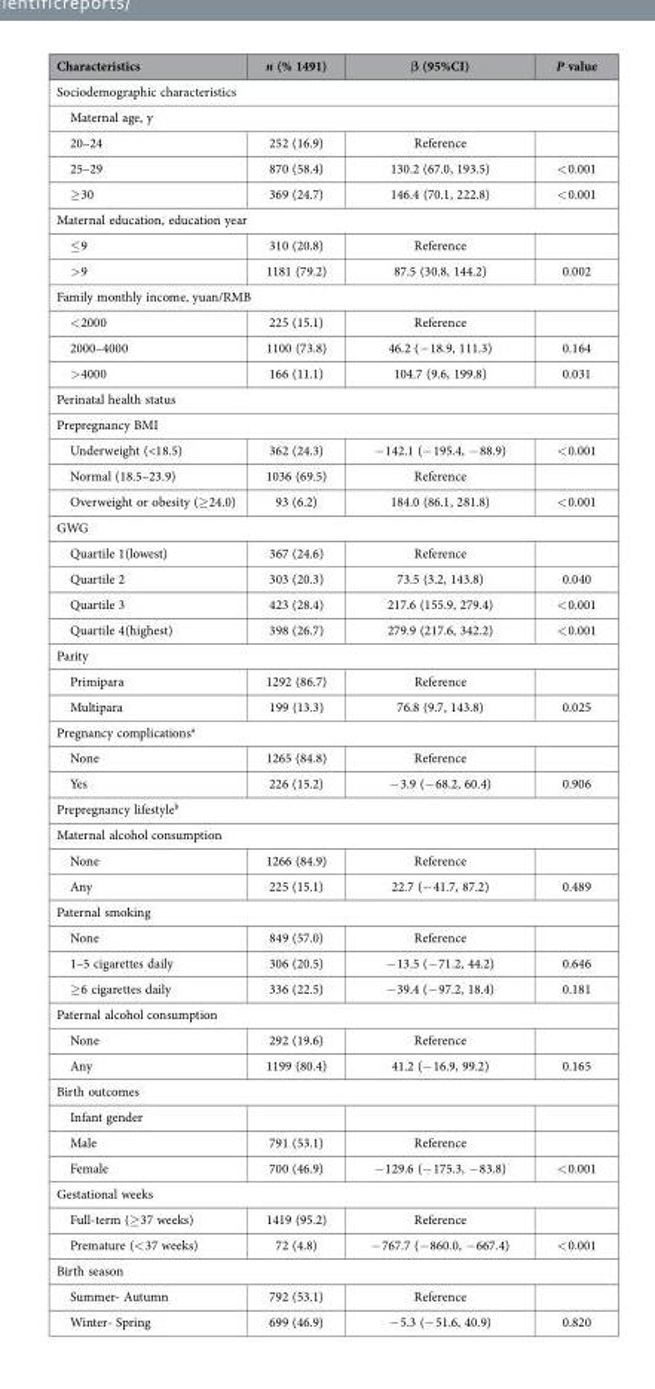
<table><thead><tr><td>Characteristics</td><td>n (% 1491)</td><td>β (95%CI)</td><td>P value</td></tr></thead><tbody><tr><td colspan="4">Sociodemographic characteristics</td></tr><tr><td colspan="4">Maternal age, y</td></tr><tr><td>20–24</td><td>252 (16.9)</td><td>Reference</td><td></td></tr><tr><td>25–29</td><td>870 (58.4)</td><td>130.2 (67.0, 193.5)</td><td>&lt; 0.001</td></tr><tr><td>≥ 30</td><td>369 (24.7)</td><td>146.4 (70.1, 222.8)</td><td>&lt; 0.001</td></tr><tr><td colspan="4">Maternal education, education year</td></tr><tr><td>≤ 9</td><td>310 (20.8)</td><td>Reference</td><td></td></tr><tr><td>&gt; 9</td><td>1181 (79.2)</td><td>87.5 (30.8, 144.2)</td><td>0.002</td></tr><tr><td colspan="4">Family monthly income, yuan/RMB</td></tr><tr><td>&lt; 2000</td><td>225 (15.1)</td><td>Reference</td><td></td></tr><tr><td>2000–4000</td><td>1100 (73.8)</td><td>46.2 (− 18.9, 111.3)</td><td>0.164</td></tr><tr><td>&gt; 4000</td><td>166 (11.1)</td><td>104.7 (9.6, 199.8)</td><td>0.031</td></tr><tr><td colspan="4">Perinatal health status</td></tr><tr><td colspan="4">Prepregnancy BMI</td></tr><tr><td>Underweight (&lt;18.5)</td><td>362 (24.3)</td><td>− 142.1 (− 195.4, − 88.9)</td><td>&lt; 0.001</td></tr><tr><td>Normal (18.5–23.9)</td><td>1036 (69.5)</td><td>Reference</td><td></td></tr><tr><td>Overweight or obesity (≥ 24.0)</td><td>93 (6.2)</td><td>184.0 (86.1, 281.8)</td><td>&lt; 0.001</td></tr><tr><td colspan="4">GWG</td></tr><tr><td>Quartile 1(lowest)</td><td>367 (24.6)</td><td>Reference</td><td></td></tr><tr><td>Quartile 2</td><td>303 (20.3)</td><td>73.5 (3.2, 143.8)</td><td>0.040</td></tr><tr><td>Quartile 3</td><td>423 (28.4)</td><td>217.6 (155.9, 279.4)</td><td>&lt; 0.001</td></tr><tr><td>Quartile 4(highest)</td><td>398 (26.7)</td><td>279.9 (217.6, 342.2)</td><td>&lt; 0.001</td></tr><tr><td colspan="4">Parity</td></tr><tr><td>Primipara</td><td>1292 (86.7)</td><td>Reference</td><td></td></tr><tr><td>Multipara</td><td>199 (13.3)</td><td>76.8 (9.7, 143.8)</td><td>0.025</td></tr><tr><td colspan="4">Pregnancy complications<sup>a</sup></td></tr><tr><td>None</td><td>1265 (84.8)</td><td>Reference</td><td></td></tr><tr><td>Yes</td><td>226 (15.2)</td><td>− 3.9 (− 68.2, 60.4)</td><td>0.906</td></tr><tr><td colspan="4">Prepregnancy lifestyle<sup>b</sup></td></tr><tr><td colspan="4">Maternal alcohol consumption</td></tr><tr><td>None</td><td>1266 (84.9)</td><td>Reference</td><td></td></tr><tr><td>Any</td><td>225 (15.1)</td><td>22.7 (− 41.7, 87.2)</td><td>0.489</td></tr><tr><td colspan="4">Paternal smoking</td></tr><tr><td>None</td><td>849 (57.0)</td><td>Reference</td><td></td></tr><tr><td>1–5 cigarettes daily</td><td>306 (20.5)</td><td>− 13.5 (− 71.2, 44.2)</td><td>0.646</td></tr><tr><td>≥ 6 cigarettes daily</td><td>336 (22.5)</td><td>− 39.4 (− 97.2, 18.4)</td><td>0.181</td></tr><tr><td colspan="4">Paternal alcohol consumption</td></tr><tr><td>None</td><td>292 (19.6)</td><td>Reference</td><td></td></tr><tr><td>Any</td><td>1199 (80.4)</td><td>41.2 (− 16.9, 99.2)</td><td>0.165</td></tr><tr><td colspan="4">Birth outcomes</td></tr><tr><td colspan="4">Infant gender</td></tr><tr><td>Male</td><td>791 (53.1)</td><td>Reference</td><td></td></tr><tr><td>Female</td><td>700 (46.9)</td><td>− 129.6 (− 175.3, − 83.8)</td><td>&lt; 0.001</td></tr><tr><td colspan="4">Gestational weeks</td></tr><tr><td>Full-term (≥ 37 weeks)</td><td>1419 (95.2)</td><td>Reference</td><td></td></tr><tr><td>Premature (&lt; 37 weeks)</td><td>72 (4.8)</td><td>− 767.7 (− 860.0, − 667.4)</td><td>&lt; 0.001</td></tr><tr><td colspan="4">Birth season</td></tr><tr><td>Summer- Autumn</td><td>792 (53.1)</td><td>Reference</td><td></td></tr><tr><td>Winter- Spring</td><td>699 (46.9)</td><td>− 5.3 (− 51.6, 40.9)</td><td>0.820</td></tr></tbody></table>